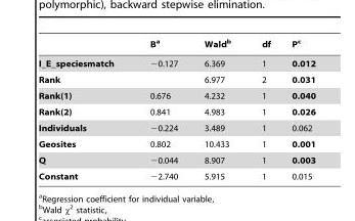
<table><thead><tr><td></td><td>B<sup>a</sup></td><td>Wald<sup>b</sup></td><td>df</td><td>P<sup>c</sup></td></tr></thead><tbody><tr><td>I_E_speciesmatch</td><td>−0.127</td><td>6.369</td><td>1</td><td>0.012</td></tr><tr><td>Rank</td><td></td><td>6.977</td><td>2</td><td>0.031</td></tr><tr><td>Rank(1)</td><td>0.676</td><td>4.232</td><td>1</td><td>0.040</td></tr><tr><td>Rank(2)</td><td>0.841</td><td>4.983</td><td>1</td><td>0.026</td></tr><tr><td>Individuals</td><td>−0.224</td><td>3.489</td><td>1</td><td>0.062</td></tr><tr><td>Geosites</td><td>0.802</td><td>10.433</td><td>1</td><td>0.001</td></tr><tr><td>Q</td><td>−0.044</td><td>8.907</td><td>1</td><td>0.003</td></tr><tr><td>Constant</td><td>−2.740</td><td>5.915</td><td>1</td><td>0.015</td></tr></tbody></table>